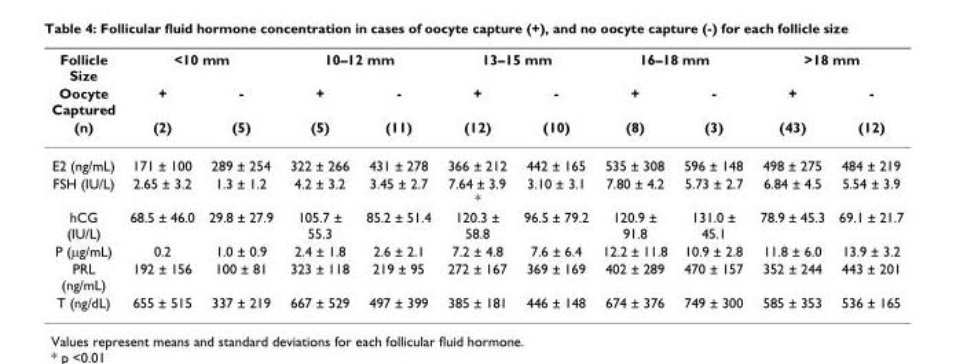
<table><thead><tr><td rowspan="3">Follicle Size Oocyte Captured (n)</td><td colspan="2">&lt;10 mm</td><td colspan="2">10–12 mm</td><td colspan="2">13–15 mm</td><td colspan="2">16–18 mm</td><td colspan="2">&gt;18 mm</td></tr><tr><td rowspan="2">+ (2)</td><td rowspan="2">- (5)</td><td rowspan="2">+ (5)</td><td rowspan="2">- (11)</td><td rowspan="2">+ (12)</td><td rowspan="2">- (10)</td><td rowspan="2">+ (8)</td><td rowspan="2">- (3)</td><td rowspan="2">+ (43)</td><td rowspan="2">- (12)</td></tr><tr></tr></thead><tbody><tr><td>E2 (ng/mL)</td><td>171 ± 100</td><td>289 ± 254</td><td>322 ± 266</td><td>431 ± 278</td><td>366 ± 212</td><td>442 ± 165</td><td>535 ± 308</td><td>596 ± 148</td><td>498 ± 275</td><td>484 ± 219</td></tr><tr><td>FSH (IU/L)</td><td>2.65 ± 3.2</td><td>1.3 ± 1.2</td><td>4.2 ± 3.2</td><td>3.45 ± 2.7</td><td>7.64 ± 3.9 *</td><td>3.10 ± 3.1</td><td>7.80 ± 4.2</td><td>5.73 ± 2.7</td><td>6.84 ± 4.5</td><td>5.54 ± 3.9</td></tr><tr><td>hCG (IU/L)</td><td>68.5 ± 46.0</td><td>29.8 ± 27.9</td><td>105.7 ± 55.3</td><td>85.2 ± 51.4</td><td>120.3 ± 58.8</td><td>96.5 ± 79.2</td><td>120.9 ± 91.8</td><td>131.0 ± 45.1</td><td>78.9 ± 45.3</td><td>69.1 ± 21.7</td></tr><tr><td>P (μg/mL)</td><td>0.2</td><td>1.0 ± 0.9</td><td>2.4 ± 1.8</td><td>2.6 ± 2.1</td><td>7.2 ± 4.8</td><td>7.6 ± 6.4</td><td>12.2 ± 11.8</td><td>10.9 ± 2.8</td><td>11.8 ± 6.0</td><td>13.9 ± 3.2</td></tr><tr><td>PRL (ng/mL)</td><td>192 ± 156</td><td>100 ± 81</td><td>323 ± 118</td><td>219 ± 95</td><td>272 ± 167</td><td>369 ± 169</td><td>402 ± 289</td><td>470 ± 157</td><td>352 ± 244</td><td>443 ± 201</td></tr><tr><td>T (ng/dL)</td><td>655 ± 515</td><td>337 ± 219</td><td>667 ± 529</td><td>497 ± 399</td><td>385 ± 181</td><td>446 ± 148</td><td>674 ± 376</td><td>749 ± 300</td><td>585 ± 353</td><td>536 ± 165</td></tr></tbody></table>